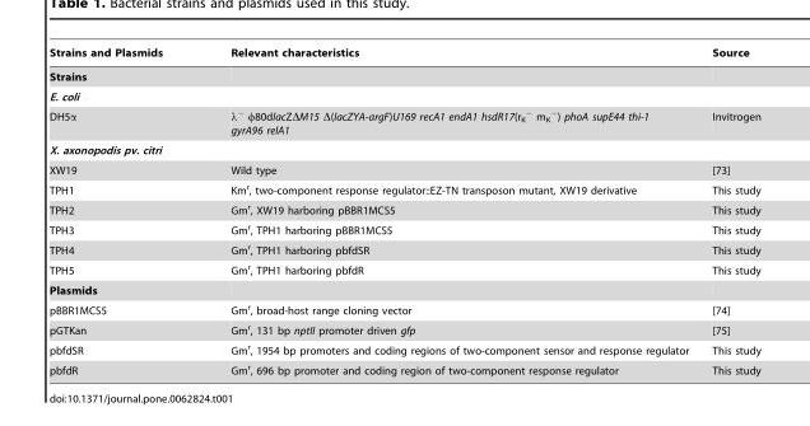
<table><thead><tr><td>Strains and Plasmids</td><td>Relevant characteristics</td><td>Source</td></tr></thead><tbody><tr><td colspan="3">Strains</td></tr><tr><td colspan="3">E. coli</td></tr><tr><td>DH5α</td><td>λ<sup>−</sup> φ80dlacZΔM15 Δ(lacZYA-argF)U169 recA1 endA1 hsdR17(r<sub>K</sub> <sup>−</sup> m<sub>K</sub> <sup>−</sup>) phoA supE44 thi-1 gyrA96 relA1</td><td>Invitrogen</td></tr><tr><td colspan="3">X. axonopodis pv. citri</td></tr><tr><td>XW19</td><td>Wild type</td><td>[73]</td></tr><tr><td>TPH1</td><td>Km<sup>r</sup>, two-component response regulator::EZ-TN transposon mutant, XW19 derivative</td><td>This study</td></tr><tr><td>TPH2</td><td>Gm<sup>r</sup>, XW19 harboring pBBR1MCS5</td><td>This study</td></tr><tr><td>TPH3</td><td>Gm<sup>r</sup>, TPH1 harboring pBBR1MCS5</td><td>This study</td></tr><tr><td>TPH4</td><td>Gm<sup>r</sup>, TPH1 harboring pbfdSR</td><td>This study</td></tr><tr><td>TPH5</td><td>Gm<sup>r</sup>, TPH1 harboring pbfdR</td><td>This study</td></tr><tr><td colspan="3">Plasmids</td></tr><tr><td>pBBR1MCS5</td><td>Gm<sup>r</sup>, broad-host range cloning vector</td><td>[74]</td></tr><tr><td>pGTKan</td><td>Gm<sup>r</sup>, 131 bp nptII promoter driven gfp</td><td>[75]</td></tr><tr><td>pbfdSR</td><td>Gm<sup>r</sup>, 1954 bp promoters and coding regions of two-component sensor and response regulator</td><td>This study</td></tr><tr><td>pbfdR</td><td>Gm<sup>r</sup>, 696 bp promoter and coding region of two-component response regulator</td><td>This study</td></tr></tbody></table>